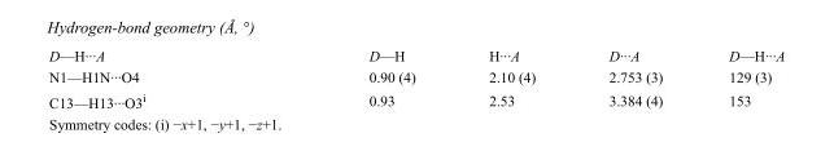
<table><tbody><tr><td>D—H···A</td><td>D—H</td><td>H···A</td><td>D···A</td><td>D—H···A</td></tr><tr><td>N1—H1N···O4</td><td>0.90 (4)</td><td>2.10 (4)</td><td>2.753 (3)</td><td>129 (3)</td></tr><tr><td>C13—H13···O3<sup>i</sup></td><td>0.93</td><td>2.53</td><td>3.384 (4)</td><td>153</td></tr></tbody></table>